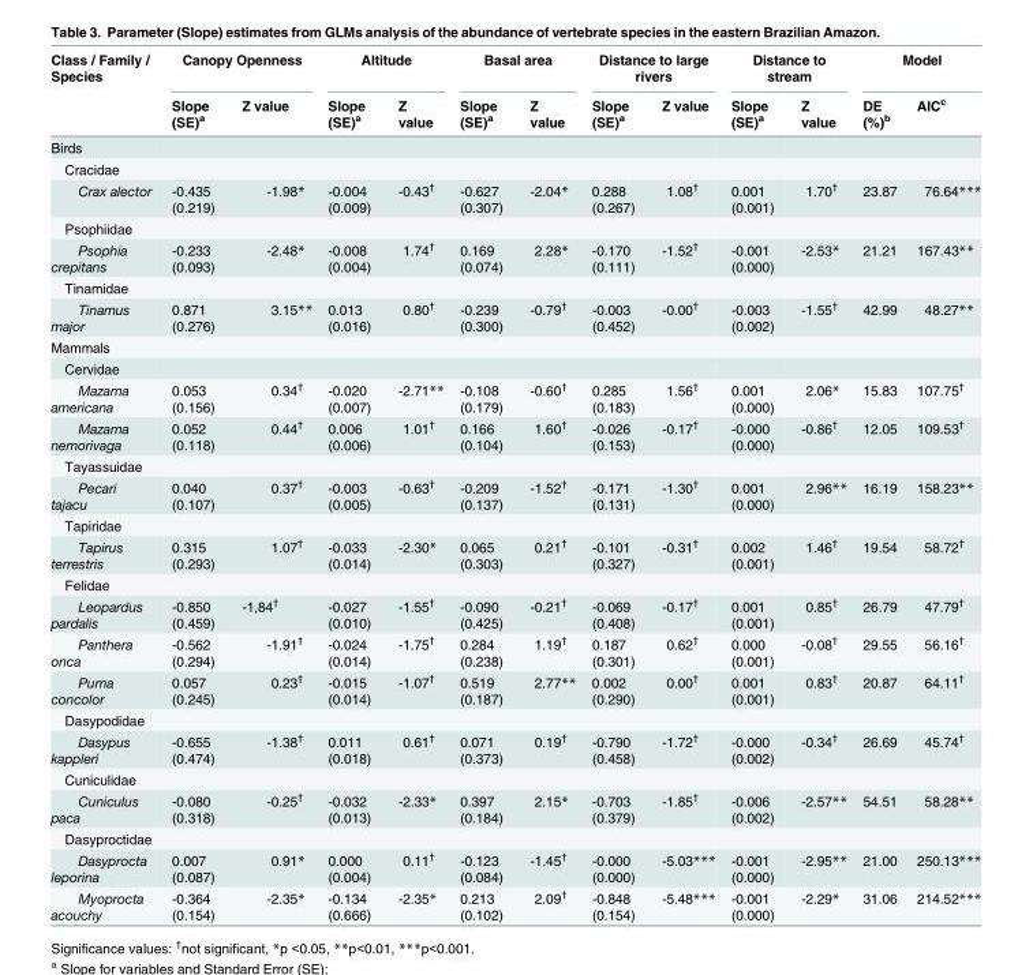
<table><thead><tr><td rowspan="2">Class / Family / Species</td><td colspan="2">Canopy Openness</td><td colspan="2">Altitude</td><td colspan="2">Basal area</td><td colspan="2">Distance to large rivers</td><td colspan="2">Distance to stream</td><td colspan="2">Model</td></tr><tr><td>Slope (SE)<sup>a</sup></td><td>Z value</td><td>Slope (SE)<sup>a</sup></td><td>Z value</td><td>Slope (SE)<sup>a</sup></td><td>Z value</td><td>Slope (SE)<sup>a</sup></td><td>Z value</td><td>Slope (SE)<sup>a</sup></td><td>Z value</td><td>DE (%)<sup>b</sup></td><td>AIC<sup>c</sup></td></tr></thead><tbody><tr><td colspan="13">Birds</td></tr><tr><td colspan="13">Cracidae</td></tr><tr><td>Crax alector</td><td>-0.435 (0.219)</td><td>-1.98*</td><td>-0.004 (0.009)</td><td>-0.43<sup>†</sup></td><td>-0.627 (0.307)</td><td>-2.04*</td><td>0.288 (0.267)</td><td>1.08<sup>†</sup></td><td>0.001 (0.001)</td><td>1.70<sup>†</sup></td><td>23.87</td><td>76.64***</td></tr><tr><td colspan="13">Psophiidae</td></tr><tr><td>Psophia crepitans</td><td>-0.233 (0.093)</td><td>-2.48*</td><td>-0.008 (0.004)</td><td>1.74<sup>†</sup></td><td>0.169 (0.074)</td><td>2.28*</td><td>-0.170 (0.111)</td><td>-1.52<sup>†</sup></td><td>-0.001 (0.000)</td><td>-2.53*</td><td>21.21</td><td>167.43**</td></tr><tr><td colspan="13">Tinamidae</td></tr><tr><td>Tinamus major</td><td>0.871 (0.276)</td><td>3.15**</td><td>0.013 (0.016)</td><td>0.80<sup>†</sup></td><td>-0.239 (0.300)</td><td>-0.79<sup>†</sup></td><td>-0.003 (0.452)</td><td>-0.00<sup>†</sup></td><td>-0.003 (0.002)</td><td>-1.55<sup>†</sup></td><td>42.99</td><td>48.27**</td></tr><tr><td colspan="13">Mammals</td></tr><tr><td colspan="13">Cervidae</td></tr><tr><td>Mazama americana</td><td>0.053 (0.156)</td><td>0.34<sup>†</sup></td><td>-0.020 (0.007)</td><td>-2.71**</td><td>-0.108 (0.179)</td><td>-0.60<sup>†</sup></td><td>0.285 (0.183)</td><td>1.56<sup>†</sup></td><td>0.001 (0.000)</td><td>2.06*</td><td>15.83</td><td>107.75<sup>†</sup></td></tr><tr><td>Mazama nemorivaga</td><td>0.052 (0.118)</td><td>0.44<sup>†</sup></td><td>0.006 (0.006)</td><td>1.01<sup>†</sup></td><td>0.166 (0.104)</td><td>1.60<sup>†</sup></td><td>-0.026 (0.153)</td><td>-0.17<sup>†</sup></td><td>-0.000 (0.000)</td><td>-0.86<sup>†</sup></td><td>12.05</td><td>109.53<sup>†</sup></td></tr><tr><td colspan="13">Tayassuidae</td></tr><tr><td>Pecari tajacu</td><td>0.040 (0.107)</td><td>0.37<sup>†</sup></td><td>-0.003 (0.005)</td><td>-0.63<sup>†</sup></td><td>-0.209 (0.137)</td><td>-1.52<sup>†</sup></td><td>-0.171 (0.131)</td><td>-1.30<sup>†</sup></td><td>0.001 (0.000)</td><td>2.96**</td><td>16.19</td><td>158.23**</td></tr><tr><td colspan="13">Tapiridae</td></tr><tr><td>Tapirus terrestris</td><td>0.315 (0.293)</td><td>1.07<sup>†</sup></td><td>-0.033 (0.014)</td><td>-2.30*</td><td>0.065 (0.303)</td><td>0.21<sup>†</sup></td><td>-0.101 (0.327)</td><td>-0.31<sup>†</sup></td><td>0.002 (0.001)</td><td>1.46<sup>†</sup></td><td>19.54</td><td>58.72<sup>†</sup></td></tr><tr><td colspan="13">Felidae</td></tr><tr><td>Leopardus pardalis</td><td>-0.850 (0.459)</td><td>-1,84<sup>†</sup></td><td>-0.027 (0.010)</td><td>-1.55<sup>†</sup></td><td>-0.090 (0.425)</td><td>-0.21<sup>†</sup></td><td>-0.069 (0.408)</td><td>-0.17<sup>†</sup></td><td>0.001 (0.001)</td><td>0.85<sup>†</sup></td><td>26.79</td><td>47.79<sup>†</sup></td></tr><tr><td>Panthera onca</td><td>-0.562 (0.294)</td><td>-1.91<sup>†</sup></td><td>-0.024 (0.014)</td><td>-1.75<sup>†</sup></td><td>0.284 (0.238)</td><td>1.19<sup>†</sup></td><td>0.187 (0.301)</td><td>0.62<sup>†</sup></td><td>0.000 (0.001)</td><td>-0.08<sup>†</sup></td><td>29.55</td><td>56.16<sup>†</sup></td></tr><tr><td>Puma concolor</td><td>0.057 (0.245)</td><td>0.23<sup>†</sup></td><td>-0.015 (0.014)</td><td>-1.07<sup>†</sup></td><td>0.519 (0.187)</td><td>2.77**</td><td>0.002 (0.290)</td><td>0.00<sup>†</sup></td><td>0.001 (0.001)</td><td>0.83<sup>†</sup></td><td>20.87</td><td>64.11<sup>†</sup></td></tr><tr><td colspan="13">Dasypodidae</td></tr><tr><td>Dasypus kappleri</td><td>-0.655 (0.474)</td><td>-1.38<sup>†</sup></td><td>0.011 (0.018)</td><td>0.61<sup>†</sup></td><td>0.071 (0.373)</td><td>0.19<sup>†</sup></td><td>-0.790 (0.458)</td><td>-1.72<sup>†</sup></td><td>-0.000 (0.002)</td><td>-0.34<sup>†</sup></td><td>26.69</td><td>45.74<sup>†</sup></td></tr><tr><td colspan="13">Cuniculidae</td></tr><tr><td>Cuniculus paca</td><td>-0.080 (0.318)</td><td>-0.25<sup>†</sup></td><td>-0.032 (0.013)</td><td>-2.33*</td><td>0.397 (0.184)</td><td>2.15*</td><td>-0.703 (0.379)</td><td>-1.85<sup>†</sup></td><td>-0.006 (0.002)</td><td>-2.57**</td><td>54.51</td><td>58.28**</td></tr><tr><td colspan="13">Dasyproctidae</td></tr><tr><td>Dasyprocta leporina</td><td>0.007 (0.087)</td><td>0.91*</td><td>0.000 (0.004)</td><td>0.11<sup>†</sup></td><td>-0.123 (0.084)</td><td>-1.45<sup>†</sup></td><td>-0.000 (0.000)</td><td>-5.03***</td><td>-0.001 (0.000)</td><td>-2.95**</td><td>21.00</td><td>250.13***</td></tr><tr><td>Myoprocta acouchy</td><td>-0.364 (0.154)</td><td>-2.35*</td><td>-0.134 (0.666)</td><td>-2.35*</td><td>0.213 (0.102)</td><td>2.09<sup>†</sup></td><td>-0.848 (0.154)</td><td>-5.48***</td><td>-0.001 (0.000)</td><td>-2.29*</td><td>31.06</td><td>214.52***</td></tr></tbody></table>